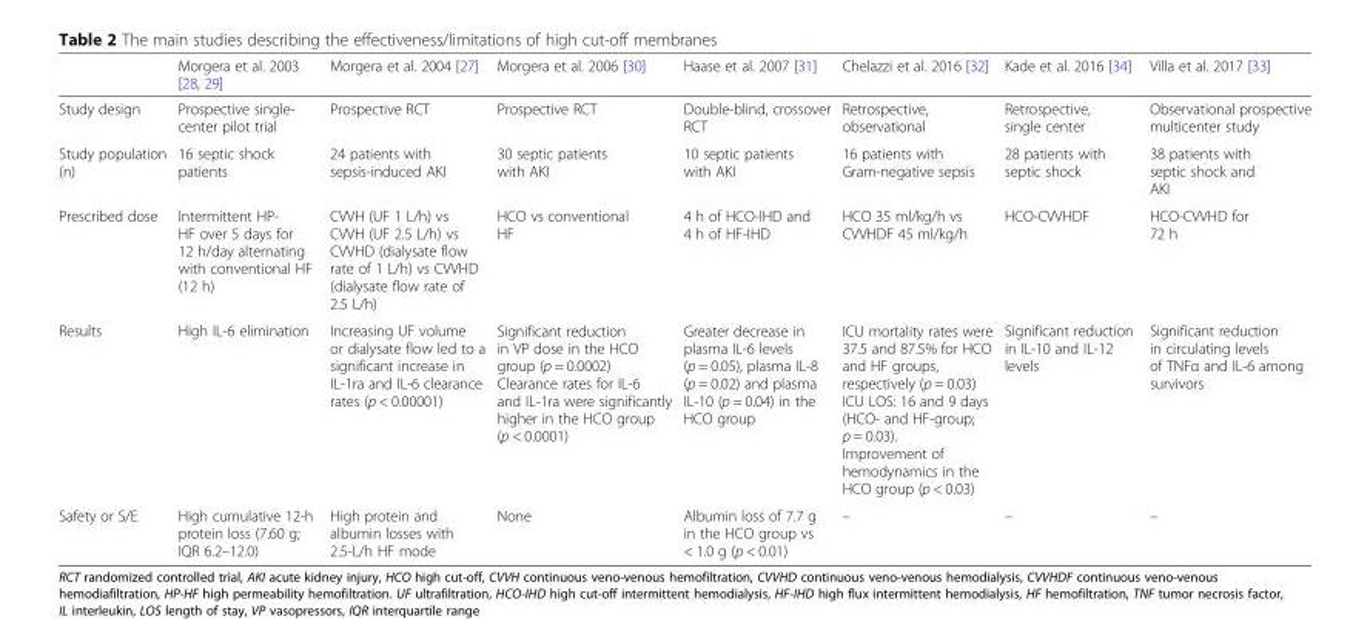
<table><thead><tr><td></td><td>Morgera et al. 2003 [28, 29]</td><td>Morgera et al. 2004 [27]</td><td>Morgera et al. 2006 [30]</td><td>Haase et al. 2007 [31]</td><td>Chelazzi et al. 2016 [32]</td><td>Kade et al. 2016 [34]</td><td>Villa et al. 2017 [33]</td></tr></thead><tbody><tr><td>Study design</td><td>Prospective single- center pilot trial</td><td>Prospective RCT</td><td>Prospective RCT</td><td>Double-blind, crossover RCT</td><td>Retrospective, observational</td><td>Retrospective, single center</td><td>Observational prospective multicenter study</td></tr><tr><td>Study population (n)</td><td>16 septic shock patients</td><td>24 patients with sepsis-induced AKI</td><td>30 septic patients with AKI</td><td>10 septic patients with AKI</td><td>16 patients with Gram-negative sepsis</td><td>28 patients with septic shock</td><td>38 patients with septic shock and AKI</td></tr><tr><td>Prescribed dose</td><td>Intermittent HP- HF over 5 days for 12 h/day alternating with conventional HF (12 h)</td><td>CVVH (UF 1 L/h) vs CVVH (UF 2.5 L/h) vs CVVHD (dialysate flow rate of 1 L/h) vs CVVHD (dialysate flow rate of 2.5 L/h)</td><td>HCO vs conventional HF</td><td>4 h of HCO-IHD and 4 h of HF-IHD</td><td>HCO 35 ml/kg/h vs CVVHDF 45 ml/kg/h</td><td>HCO-CVVHDF</td><td>HCO-CVVHD for 72 h</td></tr><tr><td>Results</td><td>High IL-6 elimination</td><td>Increasing UF volume or dialysate flow led to a significant increase in IL-1ra and IL-6 clearance rates (p &lt; 0.00001)</td><td>Significant reduction in VP dose in the HCO group (p = 0.0002) Clearance rates for IL-6 and IL-1ra were significantly higher in the HCO group (p &lt; 0.0001)</td><td>Greater decrease in plasma IL-6 levels (p = 0.05), plasma IL-8 (p = 0.02) and plasma IL-10 (p = 0.04) in the HCO group</td><td>ICU mortality rates were 37.5 and 87.5% for HCO and HF groups, respectively (p = 0.03) ICU LOS: 16 and 9 days (HCO- and HF-group; p = 0.03). Improvement of hemodynamics in the HCO group (p &lt; 0.03)</td><td>Significant reduction in IL-10 and IL-12 levels</td><td>Significant reduction in circulating levels of TNFα and IL-6 among survivors</td></tr><tr><td>Safety or S/E</td><td>High cumulative 12-h protein loss (7.60 g; IQR 6.2–12.0)</td><td>High protein and albumin losses with 2.5-L/h HF mode</td><td>None</td><td>Albumin loss of 7.7 g in the HCO group vs &lt; 1.0 g (p &lt; 0.01)</td><td>–</td><td>–</td><td>–</td></tr></tbody></table>